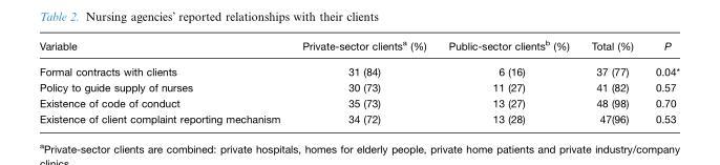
<table><thead><tr><td>Variable</td><td>Private-sector clientsa (%)</td><td>Public-sector clientsb (%)</td><td>Total (%)</td><td>P</td></tr></thead><tbody><tr><td>Formal contracts with clients</td><td>31 (84)</td><td>6 (16)</td><td>37 (77)</td><td>0.04*</td></tr><tr><td>Policy to guide supply of nurses</td><td>30 (73)</td><td>11 (27)</td><td>41 (82)</td><td>0.57</td></tr><tr><td>Existence of code of conduct</td><td>35 (73)</td><td>13 (27)</td><td>48 (98)</td><td>0.70</td></tr><tr><td>Existence of client complaint reporting mechanism</td><td>34 (72)</td><td>13 (28)</td><td>47(96)</td><td>0.53</td></tr></tbody></table>